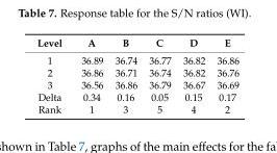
<table><thead><tr><td>Level</td><td>A</td><td>B</td><td>C</td><td>D</td><td>E</td></tr></thead><tbody><tr><td>1</td><td>36.89</td><td>36.74</td><td>36.77</td><td>36.82</td><td>36.86</td></tr><tr><td>2</td><td>36.86</td><td>36.71</td><td>36.74</td><td>36.82</td><td>36.76</td></tr><tr><td>3</td><td>36.56</td><td>36.86</td><td>36.79</td><td>36.67</td><td>36.69</td></tr><tr><td>Delta</td><td>0.34</td><td>0.16</td><td>0.05</td><td>0.15</td><td>0.17</td></tr><tr><td>Rank</td><td>1</td><td>3</td><td>5</td><td>4</td><td>2</td></tr></tbody></table>